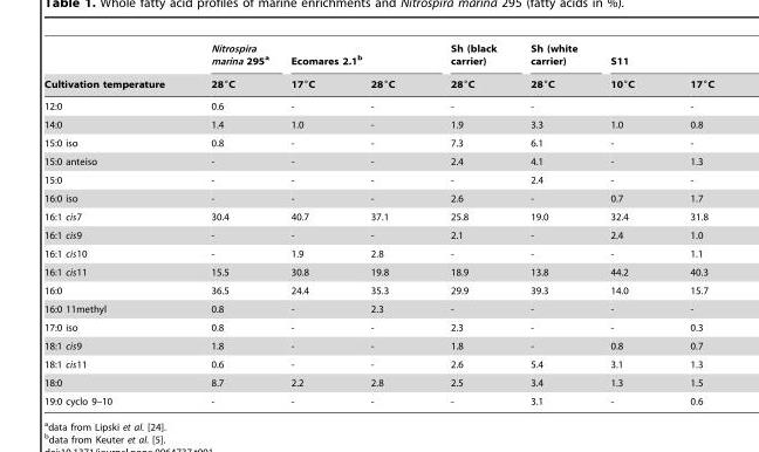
<table><thead><tr><td rowspan="2">Cultivation temperature</td><td rowspan="2">Nitrospira marina 295<sup>a</sup> 28°C</td><td colspan="2">Ecomares 2.1<sup>b</sup></td><td rowspan="2">Sh (black carrier) 28°C</td><td rowspan="2">Sh (white carrier) 28°C</td><td colspan="2">S11</td></tr><tr><td>17°C</td><td>28°C</td><td>10°C</td><td>17°C</td></tr></thead><tbody><tr><td>12:0</td><td>0.6</td><td>-</td><td>-</td><td>-</td><td>-</td><td></td><td>-</td></tr><tr><td>14:0</td><td>1.4</td><td>1.0</td><td>-</td><td>1.9</td><td>3.3</td><td>1.0</td><td>0.8</td></tr><tr><td>15:0 iso</td><td>0.8</td><td>-</td><td>-</td><td>7.3</td><td>6.1</td><td>-</td><td>-</td></tr><tr><td>15:0 anteiso</td><td>-</td><td>-</td><td>-</td><td>2.4</td><td>4.1</td><td>-</td><td>1.3</td></tr><tr><td>15:0</td><td>-</td><td>-</td><td>-</td><td>-</td><td>2.4</td><td>-</td><td>-</td></tr><tr><td>16:0 iso</td><td>-</td><td>-</td><td>-</td><td>2.6</td><td>-</td><td>0.7</td><td>1.7</td></tr><tr><td>16:1 cis7</td><td>30.4</td><td>40.7</td><td>37.1</td><td>25.8</td><td>19.0</td><td>32.4</td><td>31.8</td></tr><tr><td>16:1 cis9</td><td>-</td><td>-</td><td>-</td><td>2.1</td><td>-</td><td>2.4</td><td>1.0</td></tr><tr><td>16:1 cis10</td><td>-</td><td>1.9</td><td>2.8</td><td>-</td><td>-</td><td>-</td><td>1.1</td></tr><tr><td>16:1 cis11</td><td>15.5</td><td>30.8</td><td>19.8</td><td>18.9</td><td>13.8</td><td>44.2</td><td>40.3</td></tr><tr><td>16:0</td><td>36.5</td><td>24.4</td><td>35.3</td><td>29.9</td><td>39.3</td><td>14.0</td><td>15.7</td></tr><tr><td>16:0 11methyl</td><td>0.8</td><td>-</td><td>2.3</td><td>-</td><td>-</td><td>-</td><td>-</td></tr><tr><td>17:0 iso</td><td>0.8</td><td>-</td><td>-</td><td>2.3</td><td>-</td><td>-</td><td>0.3</td></tr><tr><td>18:1 cis9</td><td>1.8</td><td>-</td><td>-</td><td>1.8</td><td>-</td><td>0.8</td><td>0.7</td></tr><tr><td>18:1 cis11</td><td>0.6</td><td>-</td><td>-</td><td>2.6</td><td>5.4</td><td>3.1</td><td>1.3</td></tr><tr><td>18:0</td><td>8.7</td><td>2.2</td><td>2.8</td><td>2.5</td><td>3.4</td><td>1.3</td><td>1.5</td></tr><tr><td>19:0 cyclo 9–10</td><td>-</td><td>-</td><td>-</td><td>-</td><td>3.1</td><td>-</td><td>0.6</td></tr></tbody></table>